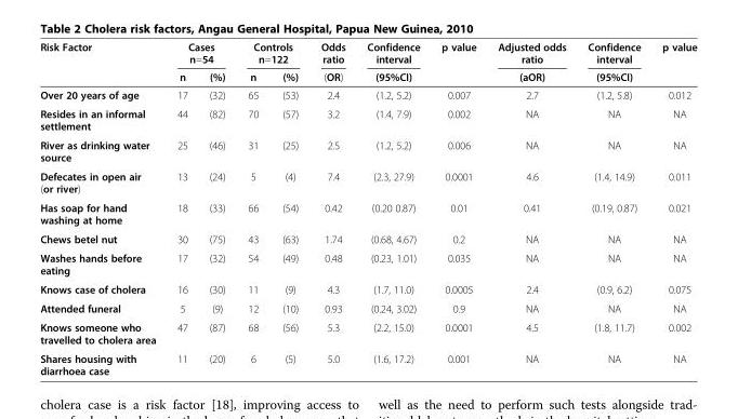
<table><thead><tr><td rowspan="2">Risk Factor</td><td colspan="2">Cases n=54</td><td colspan="2">Controls n=122</td><td rowspan="2">Odds ratio (OR)</td><td rowspan="2">Confidence interval (95%CI)</td><td rowspan="2">p value</td><td rowspan="2">Adjusted odds ratio (aOR)</td><td rowspan="2">Confidence interval (95%CI)</td><td rowspan="2">p value</td></tr><tr><td>n</td><td>(%)</td><td>n</td><td>(%)</td></tr></thead><tbody><tr><td>Over 20 years of age</td><td>17</td><td>(32)</td><td>65</td><td>(53)</td><td>2.4</td><td>(1.2, 5.2)</td><td>0.007</td><td>2.7</td><td>(1.2, 5.8)</td><td>0.012</td></tr><tr><td>Resides in an informal settlement</td><td>44</td><td>(82)</td><td>70</td><td>(57)</td><td>3.2</td><td>(1.4, 7.9)</td><td>0.002</td><td>NA</td><td>NA</td><td>NA</td></tr><tr><td>River as drinking water source</td><td>25</td><td>(46)</td><td>31</td><td>(25)</td><td>2.5</td><td>(1.2, 5.2)</td><td>0.006</td><td>NA</td><td>NA</td><td>NA</td></tr><tr><td>Defecates in open air (or river)</td><td>13</td><td>(24)</td><td>5</td><td>(4)</td><td>7.4</td><td>(2.3, 27.9)</td><td>0.0001</td><td>4.6</td><td>(1.4, 14.9)</td><td>0.011</td></tr><tr><td>Has soap for hand washing at home</td><td>18</td><td>(33)</td><td>66</td><td>(54)</td><td>0.42</td><td>(0.20 0.87)</td><td>0.01</td><td>0.41</td><td>(0.19, 0.87)</td><td>0.021</td></tr><tr><td>Chews betel nut</td><td>30</td><td>(75)</td><td>43</td><td>(63)</td><td>1.74</td><td>(0.68, 4.67)</td><td>0.2</td><td>NA</td><td>NA</td><td>NA</td></tr><tr><td>Washes hands before eating</td><td>17</td><td>(32)</td><td>54</td><td>(49)</td><td>0.48</td><td>(0.23, 1.01)</td><td>0.035</td><td>NA</td><td>NA</td><td>NA</td></tr><tr><td>Knows case of cholera</td><td>16</td><td>(30)</td><td>11</td><td>(9)</td><td>4.3</td><td>(1.7, 11.0)</td><td>0.0005</td><td>2.4</td><td>(0.9, 6.2)</td><td>0.075</td></tr><tr><td>Attended funeral</td><td>5</td><td>(9)</td><td>12</td><td>(10)</td><td>0.93</td><td>(0.24, 3.02)</td><td>0.9</td><td>NA</td><td>NA</td><td>NA</td></tr><tr><td>Knows someone who travelled to cholera area</td><td>47</td><td>(87)</td><td>68</td><td>(56)</td><td>5.3</td><td>(2.2, 15.0)</td><td>0.0001</td><td>4.5</td><td>(1.8, 11.7)</td><td>0.002</td></tr><tr><td>Shares housing with diarrhoea case</td><td>11</td><td>(20)</td><td>6</td><td>(5)</td><td>5.0</td><td>(1.6, 17.2)</td><td>0.001</td><td>NA</td><td>NA</td><td>NA</td></tr></tbody></table>